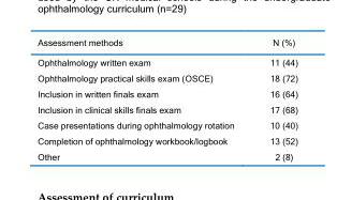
<table><thead><tr><td>Assessment methods</td><td>N (%)</td></tr></thead><tbody><tr><td>Ophthalmology written exam</td><td>11 (44)</td></tr><tr><td>Ophthalmology practical skills exam (OSCE)</td><td>18 (72)</td></tr><tr><td>Inclusion in written finals exam</td><td>16 (64)</td></tr><tr><td>Inclusion in clinical skills finals exam</td><td>17 (68)</td></tr><tr><td>Case presentations during ophthalmology rotation</td><td>10 (40)</td></tr><tr><td>Completion of ophthalmology workbook/logbook</td><td>13 (52)</td></tr><tr><td>Other</td><td>2 (8)</td></tr></tbody></table>